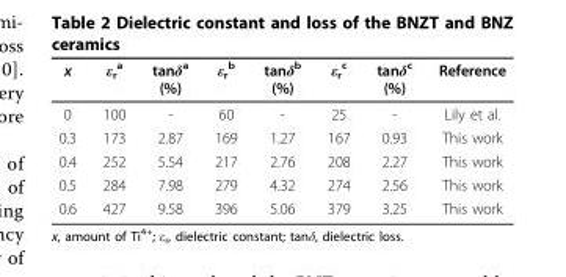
<table><thead><tr><td>x</td><td>ε<sub>r</sub> <sup>a</sup></td><td>tanδ<sup>a</sup> (%)</td><td>ε<sub>r</sub> <sup>b</sup></td><td>tanδ<sup>b</sup> (%)</td><td>ε<sub>r</sub> <sup>c</sup></td><td>tanδ<sup>c</sup> (%)</td><td>Reference</td></tr></thead><tbody><tr><td>0</td><td>100</td><td>-</td><td>60</td><td>-</td><td>25</td><td>-</td><td>Lily et al.</td></tr><tr><td>0.3</td><td>173</td><td>2.87</td><td>169</td><td>1.27</td><td>167</td><td>0.93</td><td>This work</td></tr><tr><td>0.4</td><td>252</td><td>5.54</td><td>217</td><td>2.76</td><td>208</td><td>2.27</td><td>This work</td></tr><tr><td>0.5</td><td>284</td><td>7.98</td><td>279</td><td>4.32</td><td>274</td><td>2.56</td><td>This work</td></tr><tr><td>0.6</td><td>427</td><td>9.58</td><td>396</td><td>5.06</td><td>379</td><td>3.25</td><td>This work</td></tr></tbody></table>